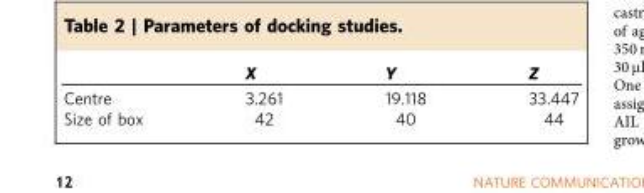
<table><thead><tr><td></td><td>X</td><td>Y</td><td>Z</td></tr></thead><tbody><tr><td>Centre</td><td>3.261</td><td>19.118</td><td>33.447</td></tr><tr><td>Size of box</td><td>42</td><td>40</td><td>44</td></tr></tbody></table>